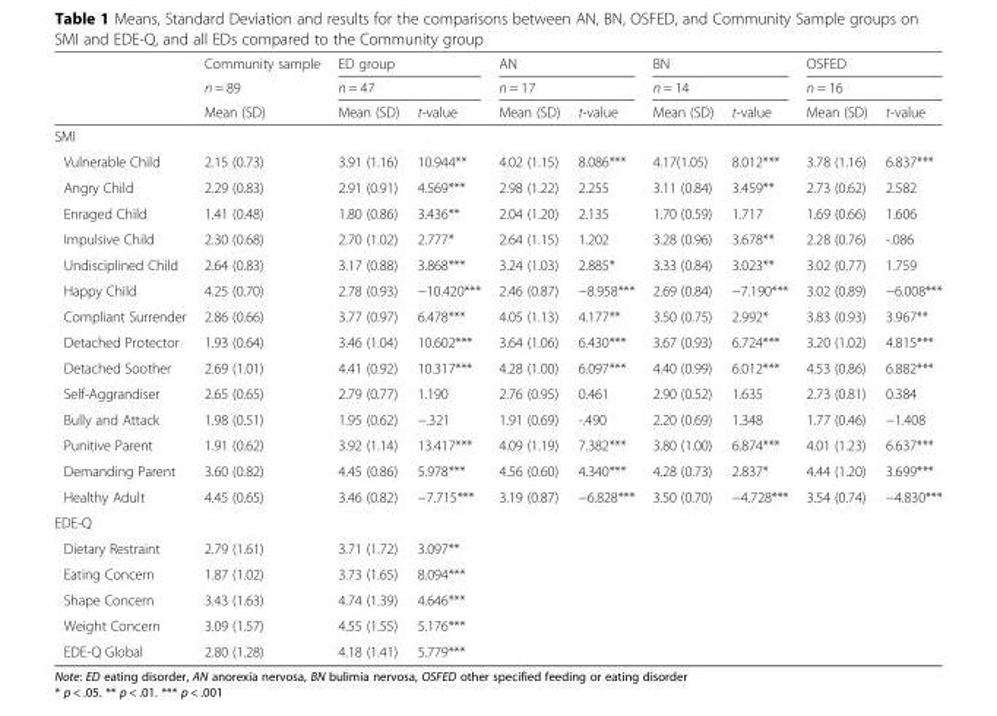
<table><thead><tr><td rowspan="3"></td><td rowspan="3">Community sample n = 89 Mean (SD)</td><td rowspan="2" colspan="2">ED group n = 47</td><td rowspan="2" colspan="2">AN n = 17</td><td rowspan="2" colspan="2">BN n = 14</td><td rowspan="2" colspan="2">OSFED n = 16</td></tr><tr></tr><tr><td>Mean (SD)</td><td>t-value</td><td>Mean (SD)</td><td>t-value</td><td>Mean (SD)</td><td>t-value</td><td>Mean (SD)</td><td>t-value</td></tr></thead><tbody><tr><td colspan="10">SMI</td></tr><tr><td>Vulnerable Child</td><td>2.15 (0.73)</td><td>3.91 (1.16)</td><td>10.944**</td><td>4.02 (1.15)</td><td>8.086***</td><td>4.17(1.05)</td><td>8.012***</td><td>3.78 (1.16)</td><td>6.837***</td></tr><tr><td>Angry Child</td><td>2.29 (0.83)</td><td>2.91 (0.91)</td><td>4.569***</td><td>2.98 (1.22)</td><td>2.255</td><td>3.11 (0.84)</td><td>3.459**</td><td>2.73 (0.62)</td><td>2.582</td></tr><tr><td>Enraged Child</td><td>1.41 (0.48)</td><td>1.80 (0.86)</td><td>3.436**</td><td>2.04 (1.20)</td><td>2.135</td><td>1.70 (0.59)</td><td>1.717</td><td>1.69 (0.66)</td><td>1.606</td></tr><tr><td>Impulsive Child</td><td>2.30 (0.68)</td><td>2.70 (1.02)</td><td>2.777*</td><td>2.64 (1.15)</td><td>1.202</td><td>3.28 (0.96)</td><td>3.678**</td><td>2.28 (0.76)</td><td>-.086</td></tr><tr><td>Undisciplined Child</td><td>2.64 (0.83)</td><td>3.17 (0.88)</td><td>3.868***</td><td>3.24 (1.03)</td><td>2.885*</td><td>3.33 (0.84)</td><td>3.023**</td><td>3.02 (0.77)</td><td>1.759</td></tr><tr><td>Happy Child</td><td>4.25 (0.70)</td><td>2.78 (0.93)</td><td>−10.420***</td><td>2.46 (0.87)</td><td>−8.958***</td><td>2.69 (0.84)</td><td>−7.190***</td><td>3.02 (0.89)</td><td>−6.008***</td></tr><tr><td>Compliant Surrender</td><td>2.86 (0.66)</td><td>3.77 (0.97)</td><td>6.478***</td><td>4.05 (1.13)</td><td>4.177**</td><td>3.50 (0.75)</td><td>2.992*</td><td>3.83 (0.93)</td><td>3.967**</td></tr><tr><td>Detached Protector</td><td>1.93 (0.64)</td><td>3.46 (1.04)</td><td>10.602***</td><td>3.64 (1.06)</td><td>6.430***</td><td>3.67 (0.93)</td><td>6.724***</td><td>3.20 (1.02)</td><td>4.815***</td></tr><tr><td>Detached Soother</td><td>2.69 (1.01)</td><td>4.41 (0.92)</td><td>10.317***</td><td>4.28 (1.00)</td><td>6.097***</td><td>4.40 (0.99)</td><td>6.012***</td><td>4.53 (0.86)</td><td>6.882***</td></tr><tr><td>Self-Aggrandiser</td><td>2.65 (0.65)</td><td>2.79 (0.77)</td><td>1.190</td><td>2.76 (0.95)</td><td>0.461</td><td>2.90 (0.52)</td><td>1.635</td><td>2.73 (0.81)</td><td>0.384</td></tr><tr><td>Bully and Attack</td><td>1.98 (0.51)</td><td>1.95 (0.62)</td><td>−.321</td><td>1.91 (0.69)</td><td>-.490</td><td>2.20 (0.69)</td><td>1.348</td><td>1.77 (0.46)</td><td>−1.408</td></tr><tr><td>Punitive Parent</td><td>1.91 (0.62)</td><td>3.92 (1.14)</td><td>13.417***</td><td>4.09 (1.19)</td><td>7.382***</td><td>3.80 (1.00)</td><td>6.874***</td><td>4.01 (1.23)</td><td>6.637***</td></tr><tr><td>Demanding Parent</td><td>3.60 (0.82)</td><td>4.45 (0.86)</td><td>5.978***</td><td>4.56 (0.60)</td><td>4.340***</td><td>4.28 (0.73)</td><td>2.837*</td><td>4.44 (1.20)</td><td>3.699***</td></tr><tr><td>Healthy Adult</td><td>4.45 (0.65)</td><td>3.46 (0.82)</td><td>−7.715***</td><td>3.19 (0.87)</td><td>−6.828***</td><td>3.50 (0.70)</td><td>−4.728***</td><td>3.54 (0.74)</td><td>−4.830***</td></tr><tr><td colspan="10">EDE-Q</td></tr><tr><td>Dietary Restraint</td><td>2.79 (1.61)</td><td>3.71 (1.72)</td><td>3.097**</td><td></td><td></td><td></td><td></td><td></td><td></td></tr><tr><td>Eating Concern</td><td>1.87 (1.02)</td><td>3.73 (1.65)</td><td>8.094***</td><td></td><td></td><td></td><td></td><td></td><td></td></tr><tr><td>Shape Concern</td><td>3.43 (1.63)</td><td>4.74 (1.39)</td><td>4.646***</td><td></td><td></td><td></td><td></td><td></td><td></td></tr><tr><td>Weight Concern</td><td>3.09 (1.57)</td><td>4.55 (1.55)</td><td>5.176***</td><td></td><td></td><td></td><td></td><td></td><td></td></tr><tr><td>EDE-Q Global</td><td>2.80 (1.28)</td><td>4.18 (1.41)</td><td>5.779***</td><td></td><td></td><td></td><td></td><td></td><td></td></tr></tbody></table>